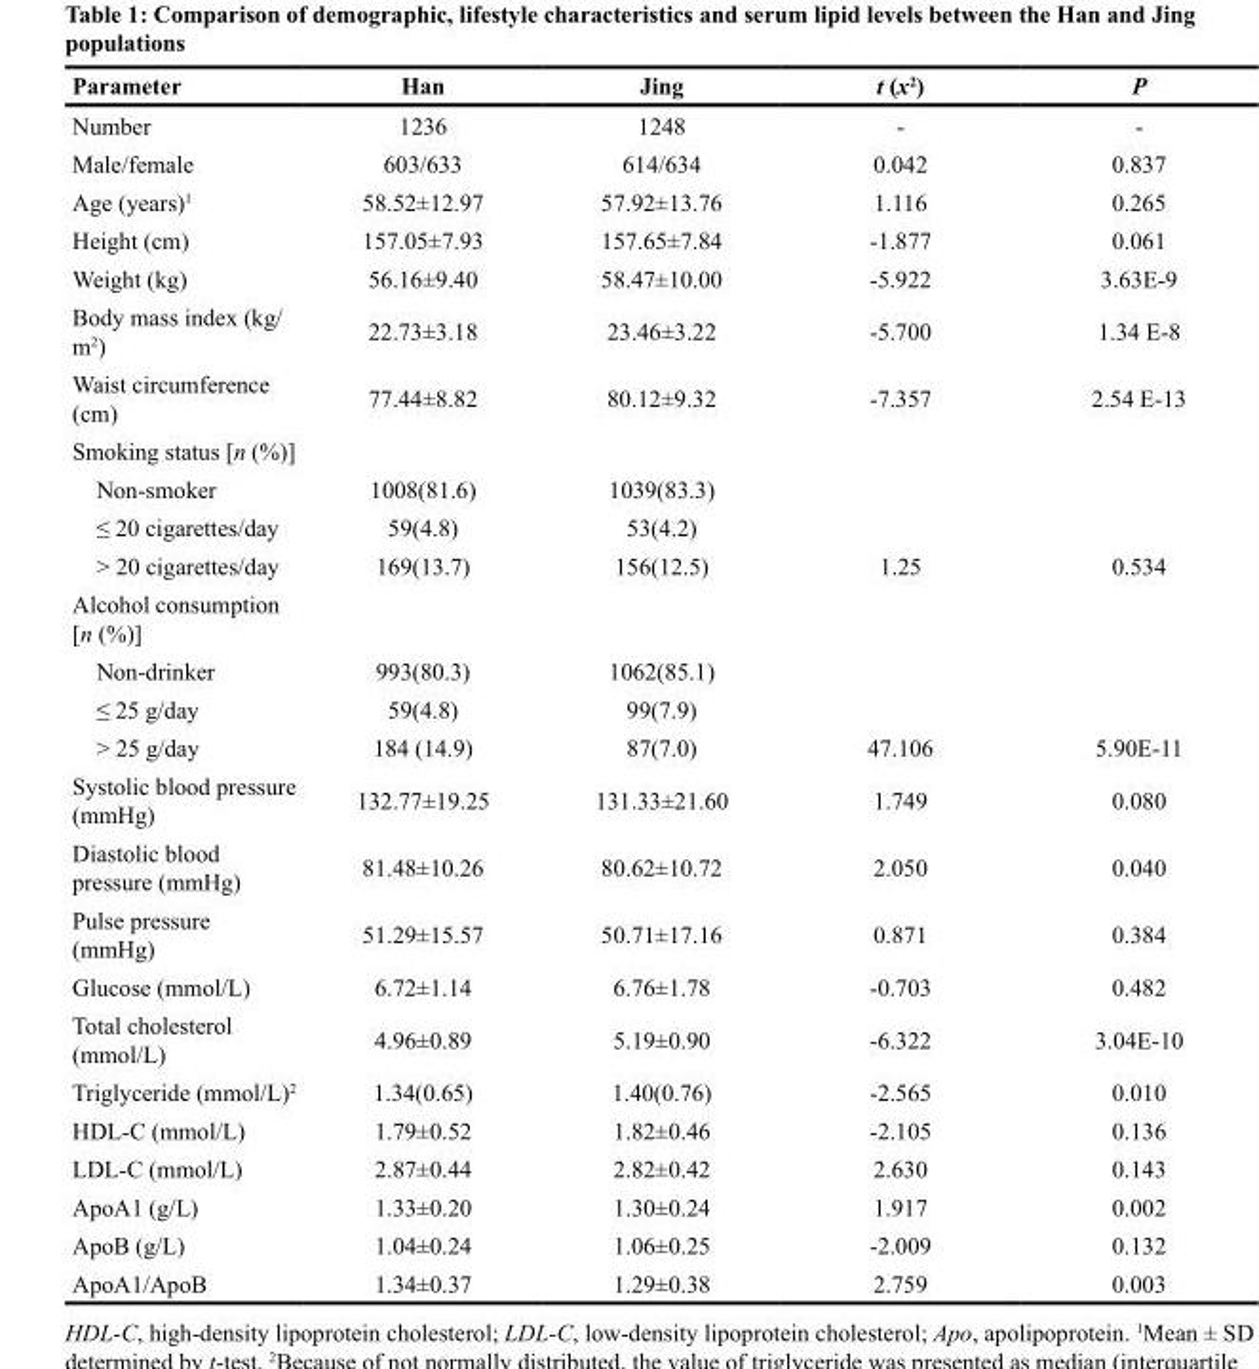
<table><thead><tr><td>Parameter</td><td>Han</td><td>Jing</td><td>t (x<sup>2</sup>)</td><td>P</td></tr></thead><tbody><tr><td>Number</td><td>1236</td><td>1248</td><td>-</td><td>-</td></tr><tr><td>Male/female</td><td>603/633</td><td>614/634</td><td>0.042</td><td>0.837</td></tr><tr><td>Age (years)<sup>1</sup></td><td>58.52±12.97</td><td>57.92±13.76</td><td>1.116</td><td>0.265</td></tr><tr><td>Height (cm)</td><td>157.05±7.93</td><td>157.65±7.84</td><td>-1.877</td><td>0.061</td></tr><tr><td>Weight (kg)</td><td>56.16±9.40</td><td>58.47±10.00</td><td>-5.922</td><td>3.63E-9</td></tr><tr><td>Body mass index (kg/ m<sup>2</sup>)</td><td>22.73±3.18</td><td>23.46±3.22</td><td>-5.700</td><td>1.34 E-8</td></tr><tr><td>Waist circumference (cm)</td><td>77.44±8.82</td><td>80.12±9.32</td><td>-7.357</td><td>2.54 E-13</td></tr><tr><td colspan="5">Smoking status [n (%)]</td></tr><tr><td>Non-smoker</td><td>1008(81.6)</td><td>1039(83.3)</td><td></td><td></td></tr><tr><td>≤ 20 cigarettes/day</td><td>59(4.8)</td><td>53(4.2)</td><td></td><td></td></tr><tr><td>&gt; 20 cigarettes/day</td><td>169(13.7)</td><td>156(12.5)</td><td>1.25</td><td>0.534</td></tr><tr><td colspan="5">Alcohol consumption [n (%)]</td></tr><tr><td>Non-drinker</td><td>993(80.3)</td><td>1062(85.1)</td><td></td><td></td></tr><tr><td>≤ 25 g/day</td><td>59(4.8)</td><td>99(7.9)</td><td></td><td></td></tr><tr><td>&gt; 25 g/day</td><td>184 (14.9)</td><td>87(7.0)</td><td>47.106</td><td>5.90E-11</td></tr><tr><td>Systolic blood pressure (mmHg)</td><td>132.77±19.25</td><td>131.33±21.60</td><td>1.749</td><td>0.080</td></tr><tr><td>Diastolic blood pressure (mmHg)</td><td>81.48±10.26</td><td>80.62±10.72</td><td>2.050</td><td>0.040</td></tr><tr><td>Pulse pressure (mmHg)</td><td>51.29±15.57</td><td>50.71±17.16</td><td>0.871</td><td>0.384</td></tr><tr><td>Glucose (mmol/L)</td><td>6.72±1.14</td><td>6.76±1.78</td><td>-0.703</td><td>0.482</td></tr><tr><td>Total cholesterol (mmol/L)</td><td>4.96±0.89</td><td>5.19±0.90</td><td>-6.322</td><td>3.04E-10</td></tr><tr><td>Triglyceride (mmol/L)<sup>2</sup></td><td>1.34(0.65)</td><td>1.40(0.76)</td><td>-2.565</td><td>0.010</td></tr><tr><td>HDL-C (mmol/L)</td><td>1.79±0.52</td><td>1.82±0.46</td><td>-2.105</td><td>0.136</td></tr><tr><td>LDL-C (mmol/L)</td><td>2.87±0.44</td><td>2.82±0.42</td><td>2.630</td><td>0.143</td></tr><tr><td>ApoA1 (g/L)</td><td>1.33±0.20</td><td>1.30±0.24</td><td>1.917</td><td>0.002</td></tr><tr><td>ApoB (g/L)</td><td>1.04±0.24</td><td>1.06±0.25</td><td>-2.009</td><td>0.132</td></tr><tr><td>ApoA1/ApoB</td><td>1.34±0.37</td><td>1.29±0.38</td><td>2.759</td><td>0.003</td></tr></tbody></table>